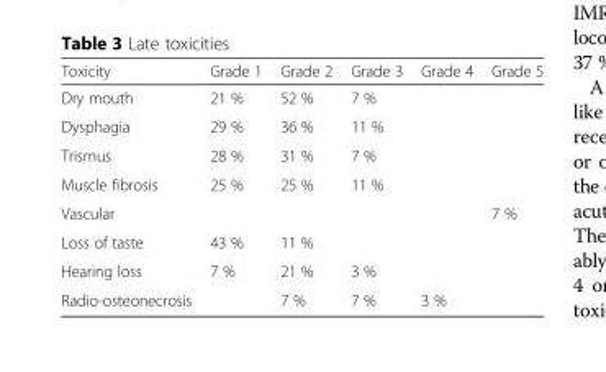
<table><thead><tr><td>Toxicity</td><td>Grade 1</td><td>Grade 2</td><td>Grade 3</td><td>Grade 4</td><td>Grade 5</td></tr></thead><tbody><tr><td>Dry mouth</td><td>21 %</td><td>52 %</td><td>7 %</td><td></td><td></td></tr><tr><td>Dysphagia</td><td>29 %</td><td>36 %</td><td>11 %</td><td></td><td></td></tr><tr><td>Trismus</td><td>28 %</td><td>31 %</td><td>7 %</td><td></td><td></td></tr><tr><td>Muscle fibrosis</td><td>25 %</td><td>25 %</td><td>11 %</td><td></td><td></td></tr><tr><td>Vascular</td><td></td><td></td><td></td><td></td><td>7 %</td></tr><tr><td>Loss of taste</td><td>43 %</td><td>11 %</td><td></td><td></td><td></td></tr><tr><td>Hearing loss</td><td>7 %</td><td>21 %</td><td>3 %</td><td></td><td></td></tr><tr><td>Radio-osteonecrosis</td><td></td><td>7 %</td><td>7 %</td><td>3 %</td><td></td></tr></tbody></table>